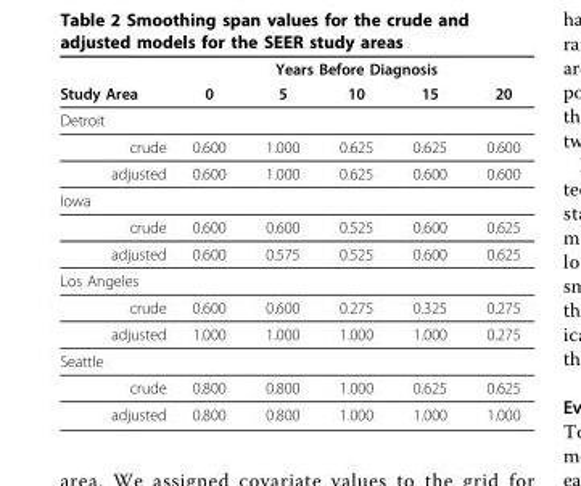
<table><thead><tr><td rowspan="2">Study Area</td><td colspan="5">Years Before Diagnosis</td></tr><tr><td>0</td><td>5</td><td>10</td><td>15</td><td>20</td></tr></thead><tbody><tr><td colspan="6">Detroit</td></tr><tr><td>crude</td><td>0.600</td><td>1.000</td><td>0.625</td><td>0.625</td><td>0.600</td></tr><tr><td>adjusted</td><td>0.600</td><td>1.000</td><td>0.625</td><td>0.600</td><td>0.600</td></tr><tr><td colspan="6">Iowa</td></tr><tr><td>crude</td><td>0.600</td><td>0.600</td><td>0.525</td><td>0.600</td><td>0.625</td></tr><tr><td>adjusted</td><td>0.600</td><td>0.575</td><td>0.525</td><td>0.600</td><td>0.625</td></tr><tr><td colspan="6">Los Angeles</td></tr><tr><td>crude</td><td>0.600</td><td>0.600</td><td>0.275</td><td>0.325</td><td>0.275</td></tr><tr><td>adjusted</td><td>1.000</td><td>1.000</td><td>1.000</td><td>1.000</td><td>0.275</td></tr><tr><td colspan="6">Seattle</td></tr><tr><td>crude</td><td>0.800</td><td>0.800</td><td>1.000</td><td>0.625</td><td>0.625</td></tr><tr><td>adjusted</td><td>0.800</td><td>0.800</td><td>1.000</td><td>1.000</td><td>1.000</td></tr></tbody></table>